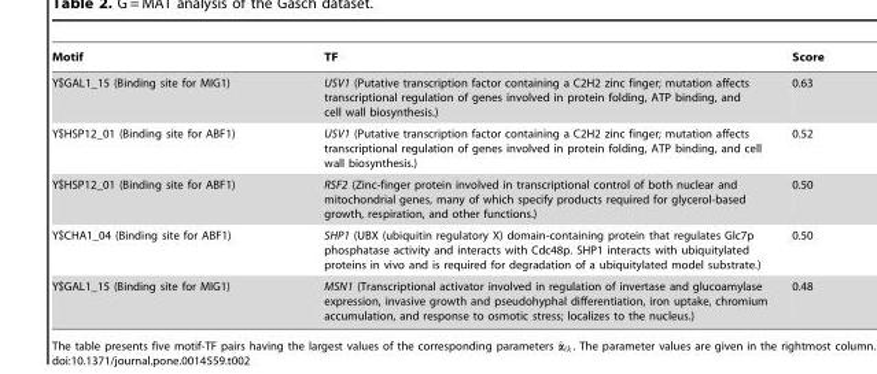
<table><thead><tr><td>Motif</td><td>TF</td><td>Score</td></tr></thead><tbody><tr><td>Y$GAL1_15 (Binding site for MIG1)</td><td>USV1 (Putative transcription factor containing a C2H2 zinc finger; mutation affects transcriptional regulation of genes involved in protein folding, ATP binding, and cell wall biosynthesis.)</td><td>0.63</td></tr><tr><td>Y$HSP12_01 (Binding site for ABF1)</td><td>USV1 (Putative transcription factor containing a C2H2 zinc finger; mutation affects transcriptional regulation of genes involved in protein folding, ATP binding, and cell wall biosynthesis.)</td><td>0.52</td></tr><tr><td>Y$HSP12_01 (Binding site for ABF1)</td><td>RSF2 (Zinc-finger protein involved in transcriptional control of both nuclear and mitochondrial genes, many of which specify products required for glycerol-based growth, respiration, and other functions.)</td><td>0.50</td></tr><tr><td>Y$CHA1_04 (Binding site for ABF1)</td><td>SHP1 (UBX (ubiquitin regulatory X) domain-containing protein that regulates Glc7p phosphatase activity and interacts with Cdc48p. SHP1 interacts with ubiquitylated proteins in vivo and is required for degradation of a ubiquitylated model substrate.)</td><td>0.50</td></tr><tr><td>Y$GAL1_15 (Binding site for MIG1)</td><td>MSN1 (Transcriptional activator involved in regulation of invertase and glucoamylase expression, invasive growth and pseudohyphal differentiation, iron uptake, chromium accumulation, and response to osmotic stress; localizes to the nucleus.)</td><td>0.48</td></tr></tbody></table>